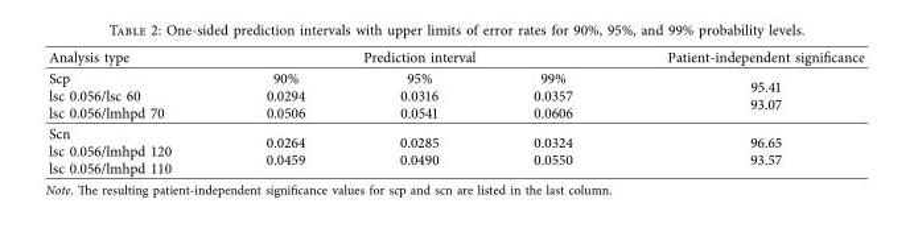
<table><thead><tr><td rowspan="2">Analysis type Scp lsc 0.056/lsc 60 lsc 0.056/lmhpd 70</td><td colspan="3">Prediction interval</td><td rowspan="2">Patient-independent significance 95.41 93.07</td></tr><tr><td>90% 0.0294 0.0506</td><td>95% 0.0316 0.0541</td><td>99% 0.0357 0.0606</td></tr></thead><tbody><tr><td>Scn lsc 0.056/lmhpd 120 lsc 0.056/lmhpd 110</td><td>0.0264 0.0459</td><td>0.0285 0.0490</td><td>0.0324 0.0550</td><td>96.65 93.57</td></tr></tbody></table>